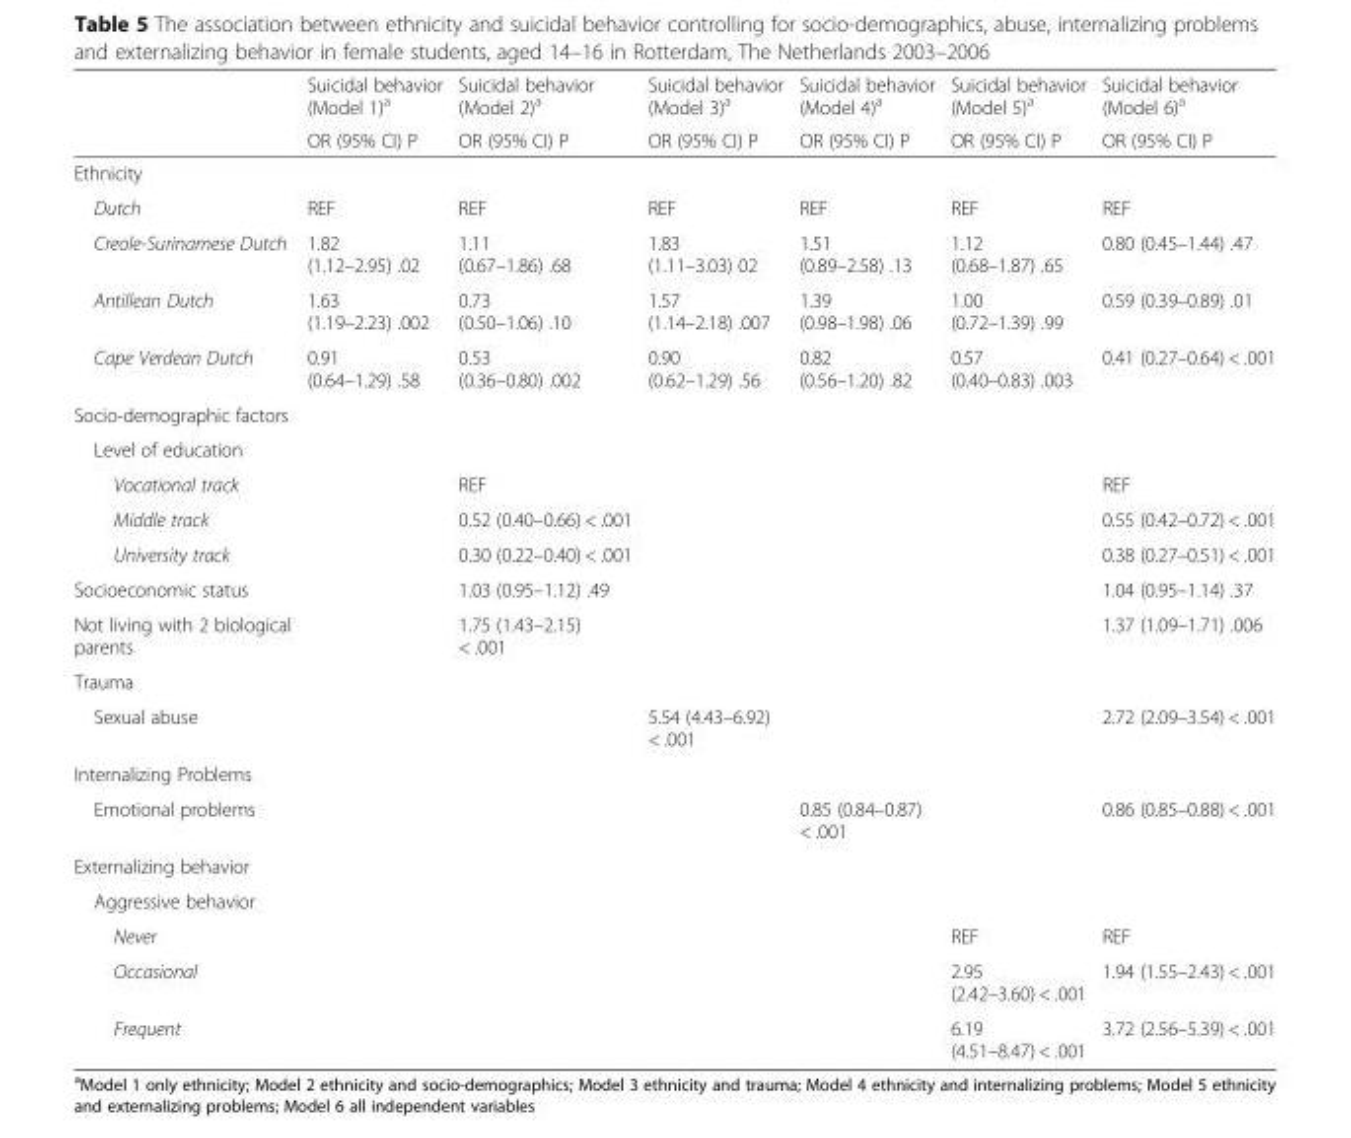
<table><thead><tr><td rowspan="2"></td><td rowspan="2">Suicidal behavior (Model 1)<sup>a</sup> OR (95% CI) P</td><td rowspan="2">Suicidal behavior (Model 2)<sup>a</sup> OR (95% CI) P</td><td rowspan="2">Suicidal behavior (Model 3)<sup>a</sup> OR (95% CI) P</td><td rowspan="2">Suicidal behavior (Model 4)<sup>a</sup> OR (95% CI) P</td><td rowspan="2">Suicidal behavior (Model 5)<sup>a</sup> OR (95% CI) P</td><td rowspan="2">Suicidal behavior (Model 6)<sup>a</sup> OR (95% CI) P</td></tr><tr></tr></thead><tbody><tr><td colspan="7">Ethnicity</td></tr><tr><td>Dutch</td><td>REF</td><td>REF</td><td>REF</td><td>REF</td><td>REF</td><td>REF</td></tr><tr><td>Creole-Surinamese Dutch</td><td>1.82 (1.12–2.95) .02</td><td>1.11 (0.67–1.86) .68</td><td>1.83 (1.11–3.03) 02</td><td>1.51 (0.89–2.58) .13</td><td>1.12 (0.68–1.87) .65</td><td>0.80 (0.45–1.44) .47</td></tr><tr><td>Antillean Dutch</td><td>1.63 (1.19–2.23) .002</td><td>0.73 (0.50–1.06) .10</td><td>1.57 (1.14–2.18) .007</td><td>1.39 (0.98–1.98) .06</td><td>1.00 (0.72–1.39) .99</td><td>0.59 (0.39–0.89) .01</td></tr><tr><td>Cape Verdean Dutch</td><td>0.91 (0.64–1.29) .58</td><td>0.53 (0.36–0.80) .002</td><td>0.90 (0.62–1.29) .56</td><td>0.82 (0.56–1.20) .82</td><td>0.57 (0.40–0.83) .003</td><td>0.41 (0.27–0.64) &lt; .001</td></tr><tr><td colspan="7">Socio-demographic factors</td></tr><tr><td colspan="7">Level of education</td></tr><tr><td>Vocational track</td><td></td><td>REF</td><td></td><td></td><td></td><td>REF</td></tr><tr><td>Middle track</td><td></td><td>0.52 (0.40–0.66) &lt; .001</td><td></td><td></td><td></td><td>0.55 (0.42–0.72) &lt; .001</td></tr><tr><td>University track</td><td></td><td>0.30 (0.22–0.40) &lt; .001</td><td></td><td></td><td></td><td>0.38 (0.27–0.51) &lt; .001</td></tr><tr><td>Socioeconomic status</td><td></td><td>1.03 (0.95–1.12) .49</td><td></td><td></td><td></td><td>1.04 (0.95–1.14) .37</td></tr><tr><td>Not living with 2 biological parents</td><td></td><td>1.75 (1.43–2.15) &lt; .001</td><td></td><td></td><td></td><td>1.37 (1.09–1.71) .006</td></tr><tr><td colspan="7">Trauma</td></tr><tr><td>Sexual abuse</td><td></td><td></td><td>5.54 (4.43–6.92) &lt; .001</td><td></td><td></td><td>2.72 (2.09–3.54) &lt; .001</td></tr><tr><td colspan="7">Internalizing Problems</td></tr><tr><td>Emotional problems</td><td></td><td></td><td></td><td>0.85 (0.84–0.87) &lt; .001</td><td></td><td>0.86 (0.85–0.88) &lt; .001</td></tr><tr><td colspan="7">Externalizing behavior</td></tr><tr><td colspan="7">Aggressive behavior</td></tr><tr><td>Never</td><td></td><td></td><td></td><td></td><td>REF</td><td>REF</td></tr><tr><td>Occasional</td><td></td><td></td><td></td><td></td><td>2.95 (2.42–3.60) &lt; .001</td><td>1.94 (1.55–2.43) &lt; .001</td></tr><tr><td>Frequent</td><td></td><td></td><td></td><td></td><td>6.19 (4.51–8.47) &lt; .001</td><td>3.72 (2.56–5.39) &lt; .001</td></tr></tbody></table>